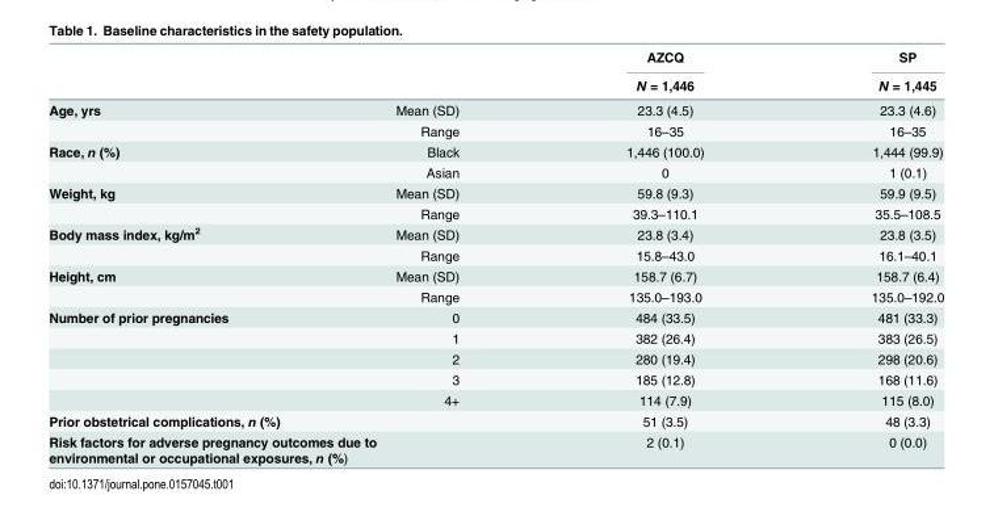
<table><thead><tr><td rowspan="2"></td><td rowspan="2"></td><td rowspan="2">AZCQ N = 1,446</td><td rowspan="2">SP N = 1,445</td></tr><tr></tr></thead><tbody><tr><td rowspan="2">Age, yrs</td><td>Mean (SD)</td><td>23.3 (4.5)</td><td>23.3 (4.6)</td></tr><tr><td>Range</td><td>16–35</td><td>16–35</td></tr><tr><td rowspan="2">Race, n (%)</td><td>Black</td><td>1,446 (100.0)</td><td>1,444 (99.9)</td></tr><tr><td>Asian</td><td>0</td><td>1 (0.1)</td></tr><tr><td rowspan="2">Weight, kg</td><td>Mean (SD)</td><td>59.8 (9.3)</td><td>59.9 (9.5)</td></tr><tr><td>Range</td><td>39.3–110.1</td><td>35.5–108.5</td></tr><tr><td rowspan="2">Body mass index, kg/m<sup>2</sup></td><td>Mean (SD)</td><td>23.8 (3.4)</td><td>23.8 (3.5)</td></tr><tr><td>Range</td><td>15.8–43.0</td><td>16.1–40.1</td></tr><tr><td rowspan="2">Height, cm</td><td>Mean (SD)</td><td>158.7 (6.7)</td><td>158.7 (6.4)</td></tr><tr><td>Range</td><td>135.0–193.0</td><td>135.0–192.0</td></tr><tr><td rowspan="5">Number of prior pregnancies</td><td>0</td><td>484 (33.5)</td><td>481 (33.3)</td></tr><tr><td>1</td><td>382 (26.4)</td><td>383 (26.5)</td></tr><tr><td>2</td><td>280 (19.4)</td><td>298 (20.6)</td></tr><tr><td>3</td><td>185 (12.8)</td><td>168 (11.6)</td></tr><tr><td>4+</td><td>114 (7.9)</td><td>115 (8.0)</td></tr><tr><td colspan="2">Prior obstetrical complications, n (%)</td><td>51 (3.5)</td><td>48 (3.3)</td></tr><tr><td colspan="2">Risk factors for adverse pregnancy outcomes due to environmental or occupational exposures, n (%)</td><td>2 (0.1)</td><td>0 (0.0)</td></tr></tbody></table>